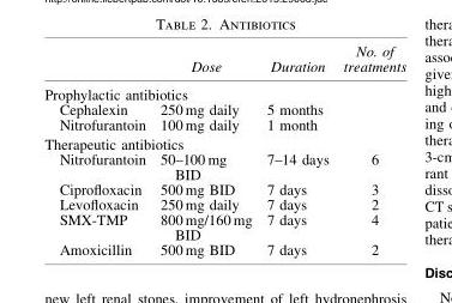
<table><thead><tr><td></td><td>Dose</td><td>Duration</td><td>No. of treatments</td></tr></thead><tbody><tr><td colspan="4">Prophylactic antibiotics</td></tr><tr><td>Cephalexin</td><td>250 mg daily</td><td>5 months</td><td></td></tr><tr><td>Nitrofurantoin</td><td>100 mg daily</td><td>1 month</td><td></td></tr><tr><td colspan="4">Therapeutic antibiotics</td></tr><tr><td>Nitrofurantoin</td><td>50–100 mg BID</td><td>7–14 days</td><td>6</td></tr><tr><td>Ciprofloxacin</td><td>500 mg BID</td><td>7 days</td><td>3</td></tr><tr><td>Levofloxacin</td><td>250 mg daily</td><td>7 days</td><td>2</td></tr><tr><td>SMX-TMP</td><td>800 mg/160 mg BID</td><td>7 days</td><td>4</td></tr><tr><td>Amoxicillin</td><td>500 mg BID</td><td>7 days</td><td>2</td></tr></tbody></table>